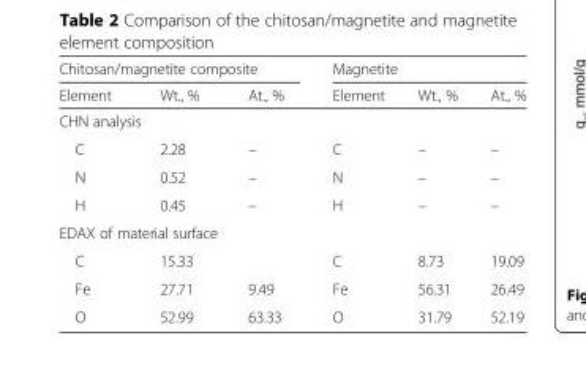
<table><thead><tr><td colspan="3">Chitosan/magnetite composite</td><td colspan="3">Magnetite</td></tr><tr><td>Element</td><td>Wt., %</td><td>At., %</td><td>Element</td><td>Wt., %</td><td>At., %</td></tr></thead><tbody><tr><td colspan="6">CHN analysis</td></tr><tr><td>C</td><td>2.28</td><td>–</td><td>C</td><td>–</td><td>–</td></tr><tr><td>N</td><td>0.52</td><td>–</td><td>N</td><td>–</td><td>–</td></tr><tr><td>H</td><td>0.45</td><td>–</td><td>H</td><td>–</td><td>–</td></tr><tr><td colspan="6">EDAX of material surface</td></tr><tr><td>C</td><td>15.33</td><td></td><td>C</td><td>8.73</td><td>19.09</td></tr><tr><td>Fe</td><td>27.71</td><td>9.49</td><td>Fe</td><td>56.31</td><td>26.49</td></tr><tr><td>O</td><td>52.99</td><td>63.33</td><td>O</td><td>31.79</td><td>52.19</td></tr></tbody></table>